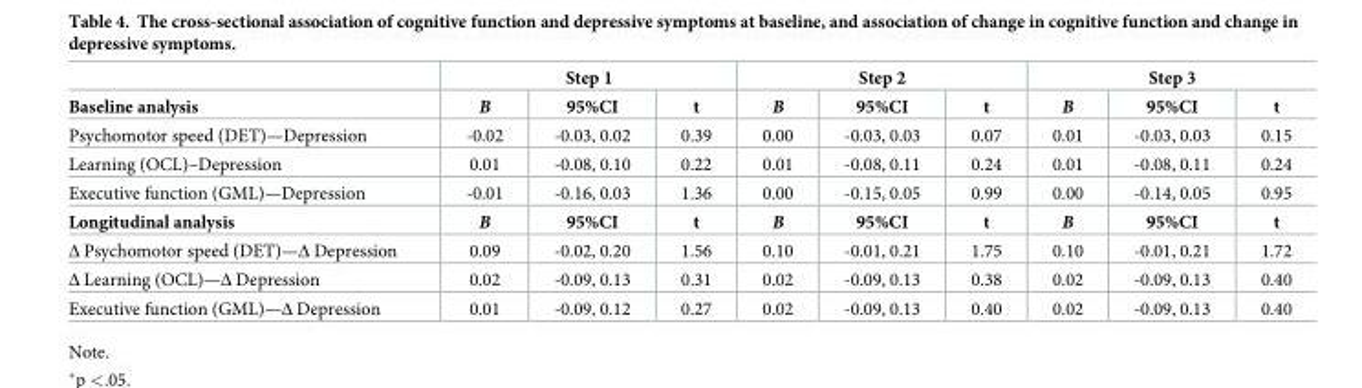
<table><thead><tr><td rowspan="2">Baseline analysis</td><td colspan="3">Step 1</td><td colspan="3">Step 2</td><td colspan="3">Step 3</td></tr><tr><td>B</td><td>95%CI</td><td>t</td><td>B</td><td>95%CI</td><td>t</td><td>B</td><td>95%CI</td><td>t</td></tr></thead><tbody><tr><td>Psychomotor speed (DET)—Depression</td><td>-0.02</td><td>-0.03, 0.02</td><td>0.39</td><td>0.00</td><td>-0.03, 0.03</td><td>0.07</td><td>0.01</td><td>-0.03, 0.03</td><td>0.15</td></tr><tr><td>Learning (OCL)–Depression</td><td>0.01</td><td>-0.08, 0.10</td><td>0.22</td><td>0.01</td><td>-0.08, 0.11</td><td>0.24</td><td>0.01</td><td>-0.08, 0.11</td><td>0.24</td></tr><tr><td>Executive function (GML)—Depression</td><td>-0.01</td><td>-0.16, 0.03</td><td>1.36</td><td>0.00</td><td>-0.15, 0.05</td><td>0.99</td><td>0.00</td><td>-0.14, 0.05</td><td>0.95</td></tr><tr><td>Longitudinal analysis</td><td>B</td><td>95%CI</td><td>t</td><td>B</td><td>95%CI</td><td>t</td><td>B</td><td>95%CI</td><td>t</td></tr><tr><td>Δ Psychomotor speed (DET)—Δ Depression</td><td>0.09</td><td>-0.02, 0.20</td><td>1.56</td><td>0.10</td><td>-0.01, 0.21</td><td>1.75</td><td>0.10</td><td>-0.01, 0.21</td><td>1.72</td></tr><tr><td>Δ Learning (OCL)—Δ Depression</td><td>0.02</td><td>-0.09, 0.13</td><td>0.31</td><td>0.02</td><td>-0.09, 0.13</td><td>0.38</td><td>0.02</td><td>-0.09, 0.13</td><td>0.40</td></tr><tr><td>Executive function (GML)—Δ Depression</td><td>0.01</td><td>-0.09, 0.12</td><td>0.27</td><td>0.02</td><td>-0.09, 0.13</td><td>0.40</td><td>0.02</td><td>-0.09, 0.13</td><td>0.40</td></tr></tbody></table>